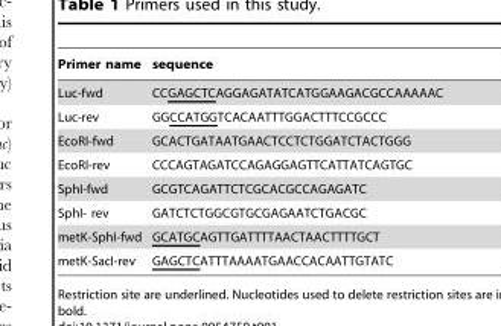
<table><thead><tr><td>Primer name</td><td>sequence</td></tr></thead><tbody><tr><td>Luc-fwd</td><td>CCGAGCTCAGGAGATATCATGGAAGACGCCAAAAAC</td></tr><tr><td>Luc-rev</td><td>GGCCATGGTCACAATTTGGACTTTCCGCCC</td></tr><tr><td>EcoRI-fwd</td><td>GCACTGATAATGAACTCCTCTGGATCTACTGGG</td></tr><tr><td>EcoRI-rev</td><td>CCCAGTAGATCCAGAGGAGTTCATTATCAGTGC</td></tr><tr><td>SphI-fwd</td><td>GCGTCAGATTCTCGCACGCCAGAGATC</td></tr><tr><td>SphI- rev</td><td>GATCTCTGGCGTGCGAGAATCTGACGC</td></tr><tr><td>metK-SphI-fwd</td><td>GCATGCAGTTGATTTTAACTAACTTTTGCT</td></tr><tr><td>metK-SacI-rev</td><td>GAGCTCATTTAAAATGAACCACAATTGTATC</td></tr></tbody></table>